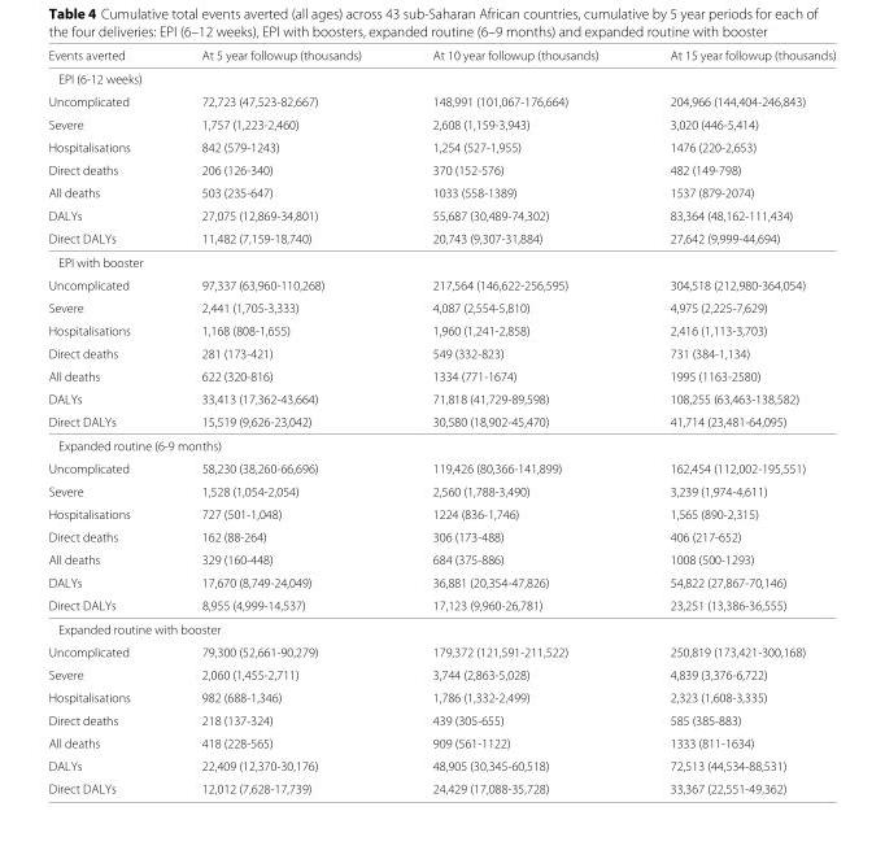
<table><thead><tr><td>Events averted</td><td>At 5 year followup (thousands)</td><td>At 10 year followup (thousands)</td><td>At 15 year followup (thousands)</td></tr></thead><tbody><tr><td colspan="4">EPI (6-12 weeks)</td></tr><tr><td>Uncomplicated</td><td>72,723 (47,523-82,667)</td><td>148,991 (101,067-176,664)</td><td>204,966 (144,404-246,843)</td></tr><tr><td>Severe</td><td>1,757 (1,223-2,460)</td><td>2,608 (1,159-3,943)</td><td>3,020 (446-5,414)</td></tr><tr><td>Hospitalisations</td><td>842 (579-1243)</td><td>1,254 (527-1,955)</td><td>1476 (220-2,653)</td></tr><tr><td>Direct deaths</td><td>206 (126-340)</td><td>370 (152-576)</td><td>482 (149-798)</td></tr><tr><td>All deaths</td><td>503 (235-647)</td><td>1033 (558-1389)</td><td>1537 (879-2074)</td></tr><tr><td>DALYs</td><td>27,075 (12,869-34,801)</td><td>55,687 (30,489-74,302)</td><td>83,364 (48,162-111,434)</td></tr><tr><td>Direct DALYs</td><td>11,482 (7,159-18,740)</td><td>20,743 (9,307-31,884)</td><td>27,642 (9,999-44,694)</td></tr><tr><td colspan="4">EPI with booster</td></tr><tr><td>Uncomplicated</td><td>97,337 (63,960-110,268)</td><td>217,564 (146,622-256,595)</td><td>304,518 (212,980-364,054)</td></tr><tr><td>Severe</td><td>2,441 (1,705-3,333)</td><td>4,087 (2,554-5,810)</td><td>4,975 (2,225-7,629)</td></tr><tr><td>Hospitalisations</td><td>1,168 (808-1,655)</td><td>1,960 (1,241-2,858)</td><td>2,416 (1,113-3,703)</td></tr><tr><td>Direct deaths</td><td>281 (173-421)</td><td>549 (332-823)</td><td>731 (384-1,134)</td></tr><tr><td>All deaths</td><td>622 (320-816)</td><td>1334 (771-1674)</td><td>1995 (1163-2580)</td></tr><tr><td>DALYs</td><td>33,413 (17,362-43,664)</td><td>71,818 (41,729-89,598)</td><td>108,255 (63,463-138,582)</td></tr><tr><td>Direct DALYs</td><td>15,519 (9,626-23,042)</td><td>30,580 (18,902-45,470)</td><td>41,714 (23,481-64,095)</td></tr><tr><td colspan="4">Expanded routine (6-9 months)</td></tr><tr><td>Uncomplicated</td><td>58,230 (38,260-66,696)</td><td>119,426 (80,366-141,899)</td><td>162,454 (112,002-195,551)</td></tr><tr><td>Severe</td><td>1,528 (1,054-2,054)</td><td>2,560 (1,788-3,490)</td><td>3,239 (1,974-4,611)</td></tr><tr><td>Hospitalisations</td><td>727 (501-1,048)</td><td>1224 (836-1,746)</td><td>1,565 (890-2,315)</td></tr><tr><td>Direct deaths</td><td>162 (88-264)</td><td>306 (173-488)</td><td>406 (217-652)</td></tr><tr><td>All deaths</td><td>329 (160-448)</td><td>684 (375-886)</td><td>1008 (500-1293)</td></tr><tr><td>DALYs</td><td>17,670 (8,749-24,049)</td><td>36,881 (20,354-47,826)</td><td>54,822 (27,867-70,146)</td></tr><tr><td>Direct DALYs</td><td>8,955 (4,999-14,537)</td><td>17,123 (9,960-26,781)</td><td>23,251 (13,386-36,555)</td></tr><tr><td colspan="4">Expanded routine with booster</td></tr><tr><td>Uncomplicated</td><td>79,300 (52,661-90,279)</td><td>179,372 (121,591-211,522)</td><td>250,819 (173,421-300,168)</td></tr><tr><td>Severe</td><td>2,060 (1,455-2,711)</td><td>3,744 (2,863-5,028)</td><td>4,839 (3,376-6,722)</td></tr><tr><td>Hospitalisations</td><td>982 (688-1,346)</td><td>1,786 (1,332-2,499)</td><td>2,323 (1,608-3,335)</td></tr><tr><td>Direct deaths</td><td>218 (137-324)</td><td>439 (305-655)</td><td>585 (385-883)</td></tr><tr><td>All deaths</td><td>418 (228-565)</td><td>909 (561-1122)</td><td>1333 (811-1634)</td></tr><tr><td>DALYs</td><td>22,409 (12,370-30,176)</td><td>48,905 (30,345-60,518)</td><td>72,513 (44,534-88,531)</td></tr><tr><td>Direct DALYs</td><td>12,012 (7,628-17,739)</td><td>24,429 (17,088-35,728)</td><td>33,367 (22,551-49,362)</td></tr></tbody></table>